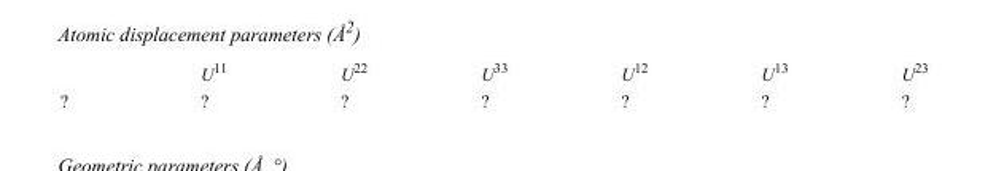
<table><thead><tr><td></td><td>U<sup>11</sup></td><td>U<sup>22</sup></td><td>U<sup>33</sup></td><td>U<sup>12</sup></td><td>U<sup>13</sup></td><td>U<sup>23</sup></td></tr></thead><tbody><tr><td>?</td><td>?</td><td>?</td><td>?</td><td>?</td><td>?</td><td>?</td></tr></tbody></table>